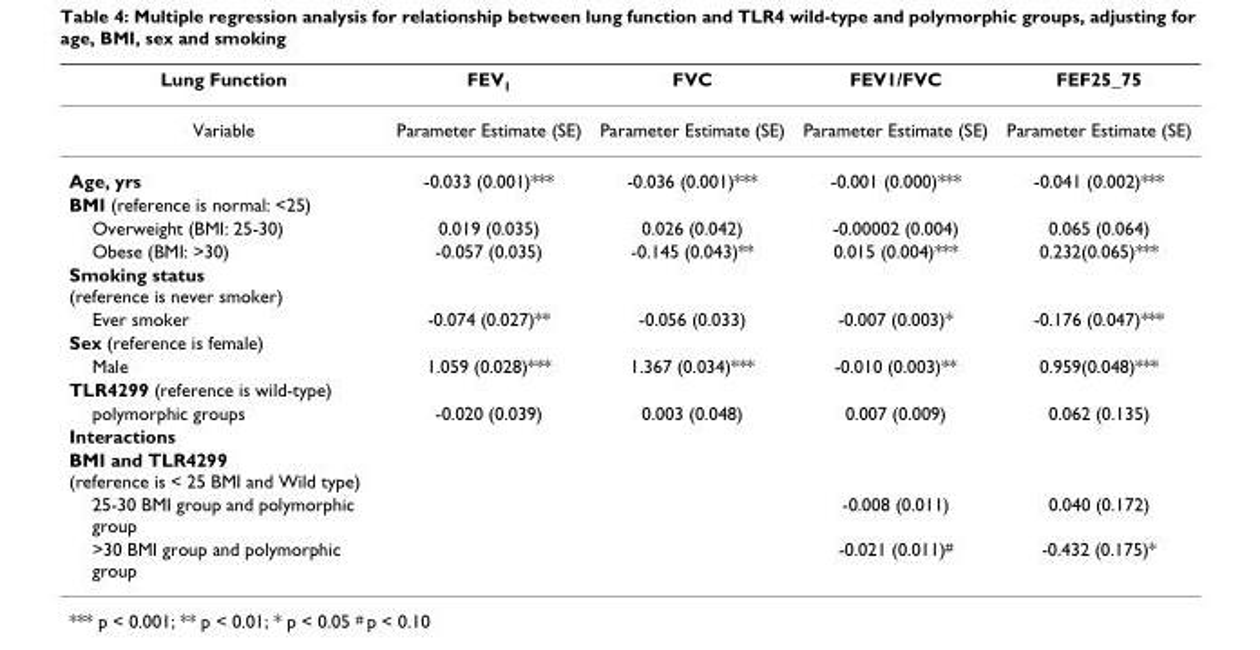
<table><thead><tr><td>Lung Function</td><td>FEV<sub>1</sub></td><td>FVC</td><td>FEV1/FVC</td><td>FEF25_75</td></tr></thead><tbody><tr><td>Variable</td><td>Parameter Estimate (SE)</td><td>Parameter Estimate (SE)</td><td>Parameter Estimate (SE)</td><td>Parameter Estimate (SE)</td></tr><tr><td>Age, yrs</td><td>-0.033 (0.001)***</td><td>-0.036 (0.001)***</td><td>-0.001 (0.000)***</td><td>-0.041 (0.002)***</td></tr><tr><td colspan="5">BMI (reference is normal: &lt;25)</td></tr><tr><td>Overweight (BMI: 25-30)</td><td>0.019 (0.035)</td><td>0.026 (0.042)</td><td>-0.00002 (0.004)</td><td>0.065 (0.064)</td></tr><tr><td>Obese (BMI: &gt;30)</td><td>-0.057 (0.035)</td><td>-0.145 (0.043)**</td><td>0.015 (0.004)***</td><td>0.232(0.065)***</td></tr><tr><td colspan="5">Smoking status (reference is never smoker)</td></tr><tr><td>Ever smoker</td><td>-0.074 (0.027)**</td><td>-0.056 (0.033)</td><td>-0.007 (0.003)*</td><td>-0.176 (0.047)***</td></tr><tr><td colspan="5">Sex (reference is female)</td></tr><tr><td>Male</td><td>1.059 (0.028)***</td><td>1.367 (0.034)***</td><td>-0.010 (0.003)**</td><td>0.959(0.048)***</td></tr><tr><td colspan="5">TLR4299 (reference is wild-type)</td></tr><tr><td>polymorphic groups</td><td>-0.020 (0.039)</td><td>0.003 (0.048)</td><td>0.007 (0.009)</td><td>0.062 (0.135)</td></tr><tr><td colspan="5">Interactions</td></tr><tr><td colspan="5">BMI and TLR4299 (reference is &lt; 25 BMI and Wild type)</td></tr><tr><td>25-30 BMI group and polymorphic group</td><td></td><td></td><td>-0.008 (0.011)</td><td>0.040 (0.172)</td></tr><tr><td>&gt;30 BMI group and polymorphic group</td><td></td><td></td><td>-0.021 (0.011)<sup>#</sup></td><td>-0.432 (0.175)*</td></tr></tbody></table>